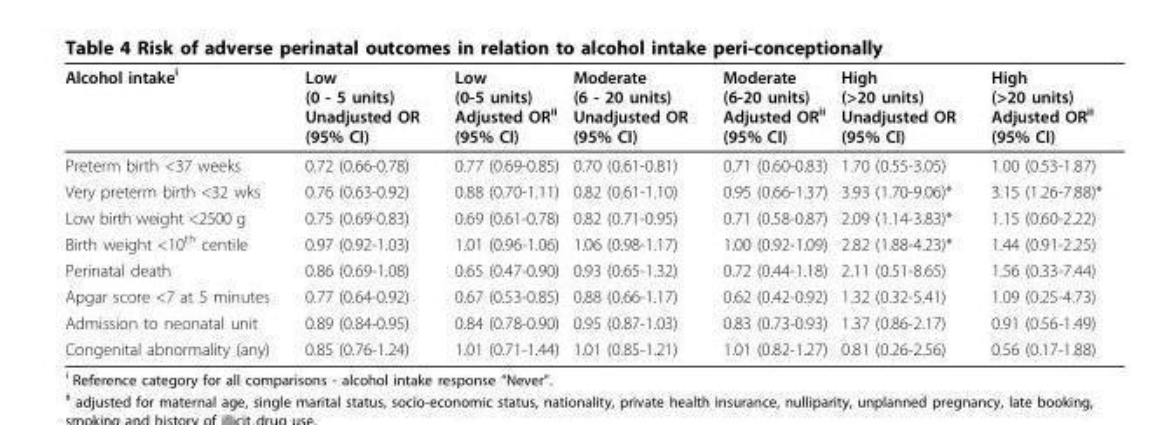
<table><thead><tr><td>Alcohol intake<sup>i</sup></td><td>Low (0 - 5 units) Unadjusted OR (95% CI)</td><td>Low (0-5 units) Adjusted OR<sup>ii</sup> (95% CI)</td><td>Moderate (6 - 20 units) Unadjusted OR (95% CI)</td><td>Moderate (6-20 units) Adjusted OR<sup>ii</sup> (95% CI)</td><td>High (&gt;20 units) Unadjusted OR (95% CI)</td><td>High (&gt;20 units) Adjusted OR<sup>ii</sup> (95% CI)</td></tr></thead><tbody><tr><td>Preterm birth &lt;37 weeks</td><td>0.72 (0.66-0.78)</td><td>0.77 (0.69-0.85)</td><td>0.70 (0.61-0.81)</td><td>0.71 (0.60-0.83)</td><td>1.70 (0.55-3.05)</td><td>1.00 (0.53-1.87)</td></tr><tr><td>Very preterm birth &lt;32 wks</td><td>0.76 (0.63-0.92)</td><td>0.88 (0.70-1.11)</td><td>0.82 (0.61-1.10)</td><td>0.95 (0.66-1.37)</td><td>3.93 (1.70-9.06)*</td><td>3.15 (1.26-7.88)*</td></tr><tr><td>Low birth weight &lt;2500 g</td><td>0.75 (0.69-0.83)</td><td>0.69 (0.61-0.78)</td><td>0.82 (0.71-0.95)</td><td>0.71 (0.58-0.87)</td><td>2.09 (1.14-3.83)*</td><td>1.15 (0.60-2.22)</td></tr><tr><td>Birth weight &lt;10<sup>th</sup> centile</td><td>0.97 (0.92-1.03)</td><td>1.01 (0.96-1.06)</td><td>1.06 (0.98-1.17)</td><td>1.00 (0.92-1.09)</td><td>2.82 (1.88-4.23)*</td><td>1.44 (0.91-2.25)</td></tr><tr><td>Perinatal death</td><td>0.86 (0.69-1.08)</td><td>0.65 (0.47-0.90)</td><td>0.93 (0.65-1.32)</td><td>0.72 (0.44-1.18)</td><td>2.11 (0.51-8.65)</td><td>1.56 (0.33-7.44)</td></tr><tr><td>Apgar score &lt;7 at 5 minutes</td><td>0.77 (0.64-0.92)</td><td>0.67 (0.53-0.85)</td><td>0.88 (0.66-1.17)</td><td>0.62 (0.42-0.92)</td><td>1.32 (0.32-5.41)</td><td>1.09 (0.25-4.73)</td></tr><tr><td>Admission to neonatal unit</td><td>0.89 (0.84-0.95)</td><td>0.84 (0.78-0.90)</td><td>0.95 (0.87-1.03)</td><td>0.83 (0.73-0.93)</td><td>1.37 (0.86-2.17)</td><td>0.91 (0.56-1.49)</td></tr><tr><td>Congenital abnormality (any)</td><td>0.85 (0.76-1.24)</td><td>1.01 (0.71-1.44)</td><td>1.01 (0.85-1.21)</td><td>1.01 (0.82-1.27)</td><td>0.81 (0.26-2.56)</td><td>0.56 (0.17-1.88)</td></tr></tbody></table>